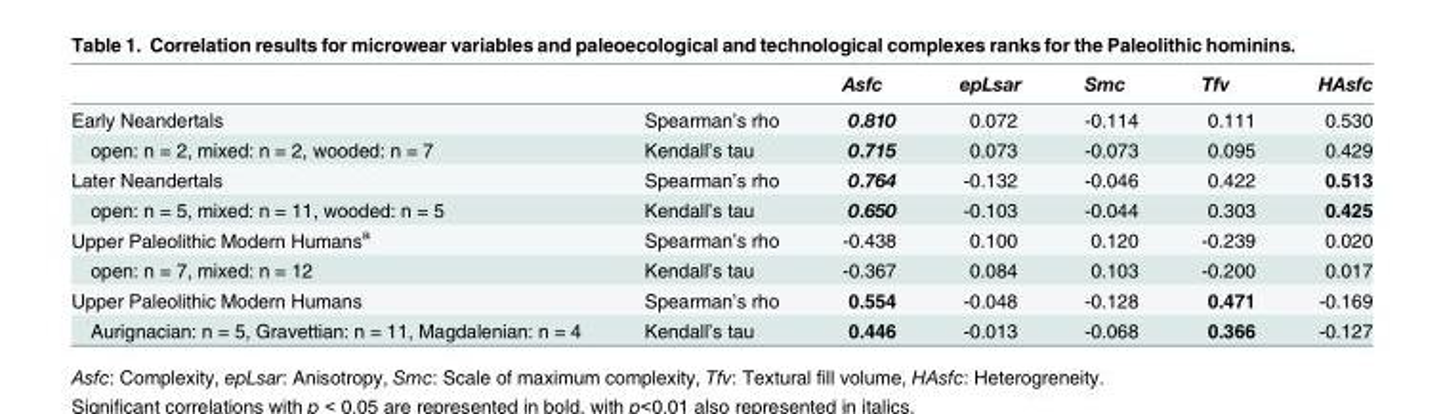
<table><thead><tr><td></td><td></td><td>Asfc</td><td>epLsar</td><td>Smc</td><td>Tfv</td><td>HAsfc</td></tr></thead><tbody><tr><td>Early Neandertals</td><td>Spearman’s rho</td><td>0.810</td><td>0.072</td><td>-0.114</td><td>0.111</td><td>0.530</td></tr><tr><td>open: n = 2, mixed: n = 2, wooded: n = 7</td><td>Kendall’s tau</td><td>0.715</td><td>0.073</td><td>-0.073</td><td>0.095</td><td>0.429</td></tr><tr><td>Later Neandertals</td><td>Spearman’s rho</td><td>0.764</td><td>-0.132</td><td>-0.046</td><td>0.422</td><td>0.513</td></tr><tr><td>open: n = 5, mixed: n = 11, wooded: n = 5</td><td>Kendall’s tau</td><td>0.650</td><td>-0.103</td><td>-0.044</td><td>0.303</td><td>0.425</td></tr><tr><td>Upper Paleolithic Modern Humans<sup>a</sup></td><td>Spearman’s rho</td><td>-0.438</td><td>0.100</td><td>0.120</td><td>-0.239</td><td>0.020</td></tr><tr><td>open: n = 7, mixed: n = 12</td><td>Kendall’s tau</td><td>-0.367</td><td>0.084</td><td>0.103</td><td>-0.200</td><td>0.017</td></tr><tr><td>Upper Paleolithic Modern Humans</td><td>Spearman’s rho</td><td>0.554</td><td>-0.048</td><td>-0.128</td><td>0.471</td><td>-0.169</td></tr><tr><td>Aurignacian: n = 5, Gravettian: n = 11, Magdalenian: n = 4</td><td>Kendall’s tau</td><td>0.446</td><td>-0.013</td><td>-0.068</td><td>0.366</td><td>-0.127</td></tr></tbody></table>